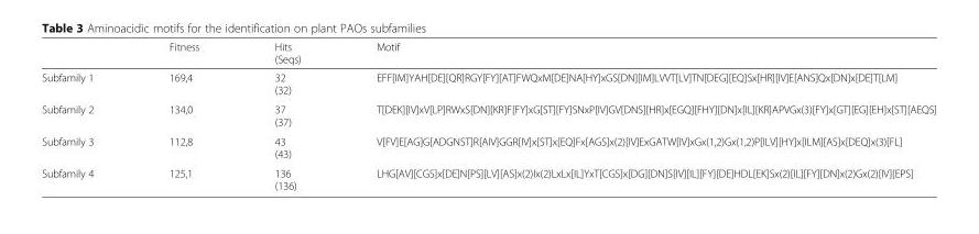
<table><thead><tr><td></td><td>Fitness</td><td>Hits (Seqs)</td><td>Motif</td></tr></thead><tbody><tr><td>Subfamily 1</td><td>169,4</td><td>32 (32)</td><td>EFF[IM]YAH[DE][QR]RGY[FY][AT]FWQxM[DE]NA[HY]xGS[DN][IM]LVVT[LV]TN[DEG][EQ]Sx[HR][IV]E[ANS]Qx[DN]x[DE]T[LM]</td></tr><tr><td>Subfamily 2</td><td>134,0</td><td>37 (37)</td><td>T[DEK][IV]xV[LP]RWxS[DN][KR]F[FY]xG[ST][FY]SNxP[IV]GV[DNS][HR]x[EGQ][FHY][DN]x[IL][KR]APVGx(3)[FY]x[GT][EG][EH]x[ST][AEQS]</td></tr><tr><td>Subfamily 3</td><td>112,8</td><td>43 (43)</td><td>V[FV]E[AG]G[ADGNST]R[AIV]GGR[IV]x[ST]x[EQ]Fx[AGS]x(2)[IV]ExGATW[IV]xGx(1,2)Gx(1,2)P[ILV][HY]x[ILM][AS]x[DEQ]x(3)[FL]</td></tr><tr><td>Subfamily 4</td><td>125,1</td><td>136 (136)</td><td>LHG[AV][CGS]x[DE]N[PS][LV][AS]x(2)Ix(2)LxLx[IL]YxT[CGS]x[DG][DN]S[IV][IL][FY][DE]HDL[EK]Sx(2)[IL][FY][DN]x(2)Gx(2)[IV][EPS]</td></tr></tbody></table>